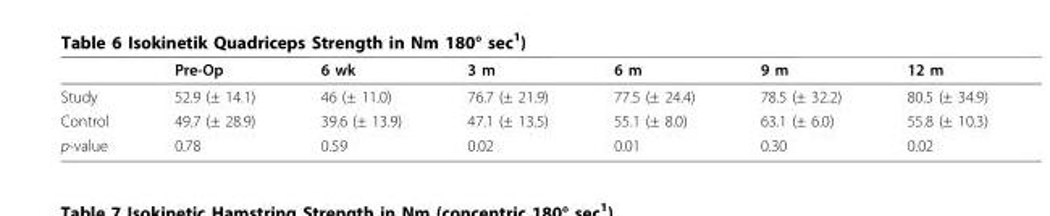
<table><thead><tr><td></td><td>Pre-Op</td><td>6 wk</td><td>3 m</td><td>6 m</td><td>9 m</td><td>12 m</td></tr></thead><tbody><tr><td>Study</td><td>52.9 (± 14.1)</td><td>46 (± 11.0)</td><td>76.7 (± 21.9)</td><td>77.5 (± 24.4)</td><td>78.5 (± 32.2)</td><td>80.5 (± 34.9)</td></tr><tr><td>Control</td><td>49.7 (± 28.9)</td><td>39.6 (± 13.9)</td><td>47.1 (± 13.5)</td><td>55.1 (± 8.0)</td><td>63.1 (± 6.0)</td><td>55.8 (± 10.3)</td></tr><tr><td>p-value</td><td>0.78</td><td>0.59</td><td>0.02</td><td>0.01</td><td>0.30</td><td>0.02</td></tr></tbody></table>